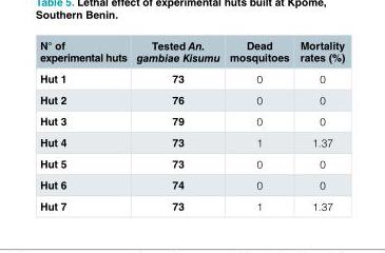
<table><thead><tr><td>N° of experimental huts</td><td>Tested An. gambiae Kisumu</td><td>Dead mosquitoes</td><td>Mortality rates (%)</td></tr></thead><tbody><tr><td>Hut 1</td><td>73</td><td>0</td><td>0</td></tr><tr><td>Hut 2</td><td>76</td><td>0</td><td>0</td></tr><tr><td>Hut 3</td><td>79</td><td>0</td><td>0</td></tr><tr><td>Hut 4</td><td>73</td><td>1</td><td>1.37</td></tr><tr><td>Hut 5</td><td>73</td><td>0</td><td>0</td></tr><tr><td>Hut 6</td><td>74</td><td>0</td><td>0</td></tr><tr><td>Hut 7</td><td>73</td><td>1</td><td>1.37</td></tr></tbody></table>